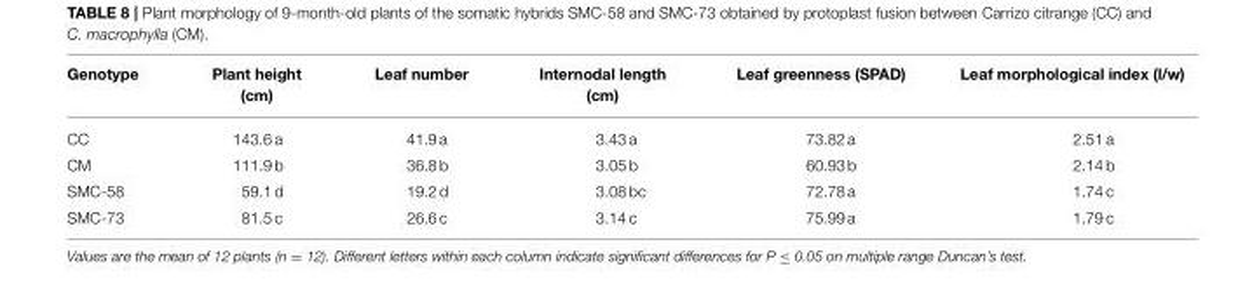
<table><thead><tr><td>Genotype</td><td>Plant height (cm)</td><td>Leaf number</td><td>Internodal length (cm)</td><td>Leaf greenness (SPAD)</td><td>Leaf morphological index (l/w)</td></tr></thead><tbody><tr><td>CC</td><td>143.6 a</td><td>41.9 a</td><td>3.43 a</td><td>73.82 a</td><td>2.51 a</td></tr><tr><td>CM</td><td>111.9 b</td><td>36.8 b</td><td>3.05 b</td><td>60.93 b</td><td>2.14 b</td></tr><tr><td>SMC-58</td><td>59.1 d</td><td>19.2 d</td><td>3.08 bc</td><td>72.78 a</td><td>1.74 c</td></tr><tr><td>SMC-73</td><td>81.5 c</td><td>26.6 c</td><td>3.14 c</td><td>75.99 a</td><td>1.79 c</td></tr></tbody></table>